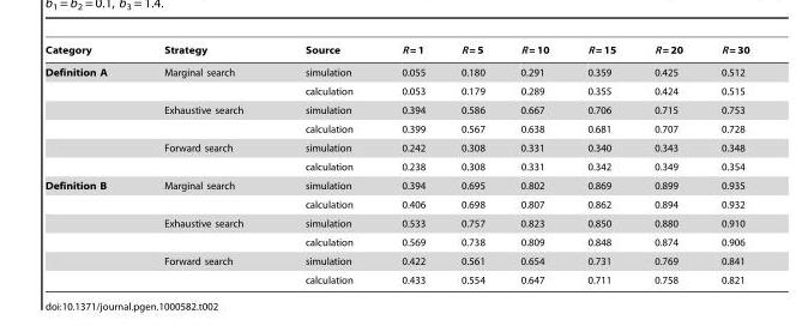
<table><thead><tr><td>Category</td><td>Strategy</td><td>Source</td><td>R = 1</td><td>R = 5</td><td>R = 10</td><td>R = 15</td><td>R = 20</td><td>R = 30</td></tr></thead><tbody><tr><td rowspan="6">Definition A</td><td>Marginal search</td><td>simulation</td><td>0.055</td><td>0.180</td><td>0.291</td><td>0.359</td><td>0.425</td><td>0.512</td></tr><tr><td></td><td>calculation</td><td>0.053</td><td>0.179</td><td>0.289</td><td>0.355</td><td>0.424</td><td>0.515</td></tr><tr><td>Exhaustive search</td><td>simulation</td><td>0.394</td><td>0.586</td><td>0.667</td><td>0.706</td><td>0.715</td><td>0.753</td></tr><tr><td></td><td>calculation</td><td>0.399</td><td>0.567</td><td>0.638</td><td>0.681</td><td>0.707</td><td>0.728</td></tr><tr><td>Forward search</td><td>simulation</td><td>0.242</td><td>0.308</td><td>0.331</td><td>0.340</td><td>0.343</td><td>0.348</td></tr><tr><td></td><td>calculation</td><td>0.238</td><td>0.308</td><td>0.331</td><td>0.342</td><td>0.349</td><td>0.354</td></tr><tr><td rowspan="6">Definition B</td><td>Marginal search</td><td>simulation</td><td>0.394</td><td>0.695</td><td>0.802</td><td>0.869</td><td>0.899</td><td>0.935</td></tr><tr><td></td><td>calculation</td><td>0.406</td><td>0.698</td><td>0.807</td><td>0.862</td><td>0.894</td><td>0.932</td></tr><tr><td>Exhaustive search</td><td>simulation</td><td>0.533</td><td>0.757</td><td>0.823</td><td>0.850</td><td>0.880</td><td>0.910</td></tr><tr><td></td><td>calculation</td><td>0.569</td><td>0.738</td><td>0.809</td><td>0.848</td><td>0.874</td><td>0.906</td></tr><tr><td>Forward search</td><td>simulation</td><td>0.422</td><td>0.561</td><td>0.654</td><td>0.731</td><td>0.769</td><td>0.841</td></tr><tr><td></td><td>calculation</td><td>0.433</td><td>0.554</td><td>0.647</td><td>0.711</td><td>0.758</td><td>0.821</td></tr></tbody></table>